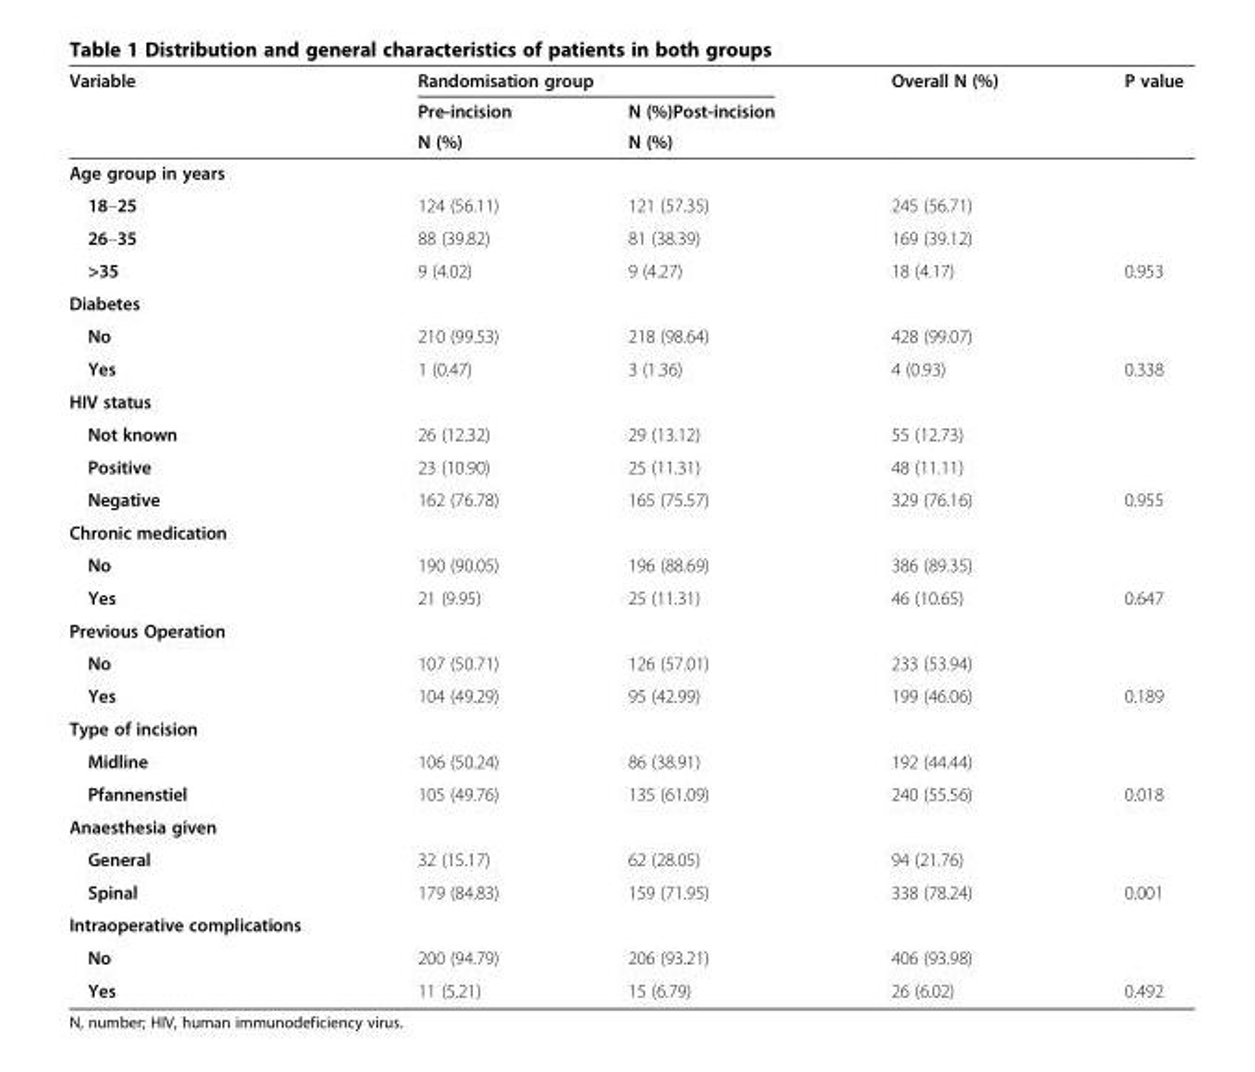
<table><thead><tr><td rowspan="3">Variable</td><td colspan="2">Randomisation group</td><td rowspan="3">Overall N (%)</td><td rowspan="3">P value</td></tr><tr><td rowspan="2">Pre-incision N (%)</td><td rowspan="2">N (%)Post-incision N (%)</td></tr><tr></tr></thead><tbody><tr><td colspan="5">Age group in years</td></tr><tr><td>18–25</td><td>124 (56.11)</td><td>121 (57.35)</td><td>245 (56.71)</td><td></td></tr><tr><td>26–35</td><td>88 (39.82)</td><td>81 (38.39)</td><td>169 (39.12)</td><td></td></tr><tr><td>&gt;35</td><td>9 (4.02)</td><td>9 (4.27)</td><td>18 (4.17)</td><td>0.953</td></tr><tr><td colspan="5">Diabetes</td></tr><tr><td>No</td><td>210 (99.53)</td><td>218 (98.64)</td><td>428 (99.07)</td><td></td></tr><tr><td>Yes</td><td>1 (0.47)</td><td>3 (1.36)</td><td>4 (0.93)</td><td>0.338</td></tr><tr><td colspan="5">HIV status</td></tr><tr><td>Not known</td><td>26 (12.32)</td><td>29 (13.12)</td><td>55 (12.73)</td><td></td></tr><tr><td>Positive</td><td>23 (10.90)</td><td>25 (11.31)</td><td>48 (11.11)</td><td></td></tr><tr><td>Negative</td><td>162 (76.78)</td><td>165 (75.57)</td><td>329 (76.16)</td><td>0.955</td></tr><tr><td colspan="5">Chronic medication</td></tr><tr><td>No</td><td>190 (90.05)</td><td>196 (88.69)</td><td>386 (89.35)</td><td></td></tr><tr><td>Yes</td><td>21 (9.95)</td><td>25 (11.31)</td><td>46 (10.65)</td><td>0.647</td></tr><tr><td colspan="5">Previous Operation</td></tr><tr><td>No</td><td>107 (50.71)</td><td>126 (57.01)</td><td>233 (53.94)</td><td></td></tr><tr><td>Yes</td><td>104 (49.29)</td><td>95 (42.99)</td><td>199 (46.06)</td><td>0.189</td></tr><tr><td colspan="5">Type of incision</td></tr><tr><td>Midline</td><td>106 (50.24)</td><td>86 (38.91)</td><td>192 (44.44)</td><td></td></tr><tr><td>Pfannenstiel</td><td>105 (49.76)</td><td>135 (61.09)</td><td>240 (55.56)</td><td>0.018</td></tr><tr><td colspan="5">Anaesthesia given</td></tr><tr><td>General</td><td>32 (15.17)</td><td>62 (28.05)</td><td>94 (21.76)</td><td></td></tr><tr><td>Spinal</td><td>179 (84.83)</td><td>159 (71.95)</td><td>338 (78.24)</td><td>0.001</td></tr><tr><td colspan="5">Intraoperative complications</td></tr><tr><td>No</td><td>200 (94.79)</td><td>206 (93.21)</td><td>406 (93.98)</td><td></td></tr><tr><td>Yes</td><td>11 (5.21)</td><td>15 (6.79)</td><td>26 (6.02)</td><td>0.492</td></tr></tbody></table>